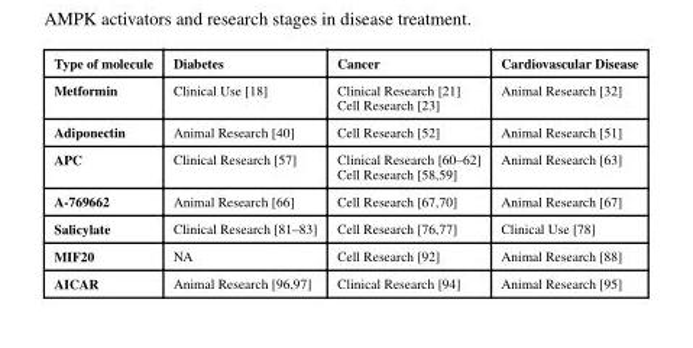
<table><thead><tr><td>Type of molecule</td><td>Diabetes</td><td>Cancer</td><td>Cardiovascular Disease</td></tr></thead><tbody><tr><td>Metformin</td><td>Clinical Use [18]</td><td>Clinical Research [21] Cell Research [23]</td><td>Animal Research [32]</td></tr><tr><td>Adiponectin</td><td>Animal Research [40]</td><td>Cell Research [52]</td><td>Animal Research [51]</td></tr><tr><td>APC</td><td>Clinical Research [57]</td><td>Clinical Research [60–62] Cell Research [58,59]</td><td>Animal Research [63]</td></tr><tr><td>A-769662</td><td>Animal Research [66]</td><td>Cell Research [67,70]</td><td>Animal Research [67]</td></tr><tr><td>Salicylate</td><td>Clinical Research [81–83]</td><td>Cell Research [76,77]</td><td>Clinical Use [78]</td></tr><tr><td>MIF20</td><td>NA</td><td>Cell Research [92]</td><td>Animal Research [88]</td></tr><tr><td>AICAR</td><td>Animal Research [96,97]</td><td>Clinical Research [94]</td><td>Animal Research [95]</td></tr></tbody></table>